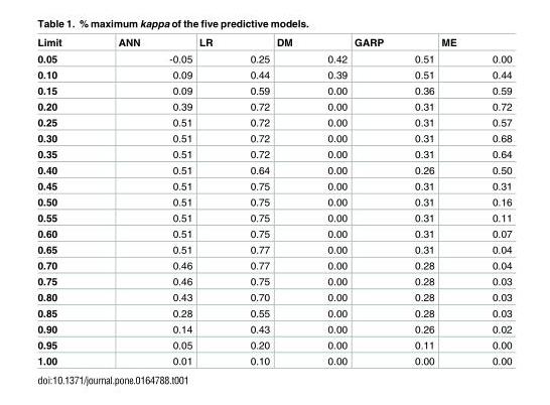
<table><thead><tr><td>Limit</td><td>ANN</td><td>LR</td><td>DM</td><td>GARP</td><td>ME</td></tr></thead><tbody><tr><td>0.05</td><td>-0.05</td><td>0.25</td><td>0.42</td><td>0.51</td><td>0.00</td></tr><tr><td>0.10</td><td>0.09</td><td>0.44</td><td>0.39</td><td>0.51</td><td>0.44</td></tr><tr><td>0.15</td><td>0.09</td><td>0.59</td><td>0.00</td><td>0.36</td><td>0.59</td></tr><tr><td>0.20</td><td>0.39</td><td>0.72</td><td>0.00</td><td>0.31</td><td>0.72</td></tr><tr><td>0.25</td><td>0.51</td><td>0.72</td><td>0.00</td><td>0.31</td><td>0.57</td></tr><tr><td>0.30</td><td>0.51</td><td>0.72</td><td>0.00</td><td>0.31</td><td>0.68</td></tr><tr><td>0.35</td><td>0.51</td><td>0.72</td><td>0.00</td><td>0.31</td><td>0.64</td></tr><tr><td>0.40</td><td>0.51</td><td>0.64</td><td>0.00</td><td>0.26</td><td>0.50</td></tr><tr><td>0.45</td><td>0.51</td><td>0.75</td><td>0.00</td><td>0.31</td><td>0.31</td></tr><tr><td>0.50</td><td>0.51</td><td>0.75</td><td>0.00</td><td>0.31</td><td>0.16</td></tr><tr><td>0.55</td><td>0.51</td><td>0.75</td><td>0.00</td><td>0.31</td><td>0.11</td></tr><tr><td>0.60</td><td>0.51</td><td>0.75</td><td>0.00</td><td>0.31</td><td>0.07</td></tr><tr><td>0.65</td><td>0.51</td><td>0.77</td><td>0.00</td><td>0.31</td><td>0.04</td></tr><tr><td>0.70</td><td>0.46</td><td>0.77</td><td>0.00</td><td>0.28</td><td>0.04</td></tr><tr><td>0.75</td><td>0.46</td><td>0.75</td><td>0.00</td><td>0.28</td><td>0.03</td></tr><tr><td>0.80</td><td>0.43</td><td>0.70</td><td>0.00</td><td>0.28</td><td>0.03</td></tr><tr><td>0.85</td><td>0.28</td><td>0.55</td><td>0.00</td><td>0.28</td><td>0.03</td></tr><tr><td>0.90</td><td>0.14</td><td>0.43</td><td>0.00</td><td>0.26</td><td>0.02</td></tr><tr><td>0.95</td><td>0.05</td><td>0.20</td><td>0.00</td><td>0.11</td><td>0.00</td></tr><tr><td>1.00</td><td>0.01</td><td>0.10</td><td>0.00</td><td>0.00</td><td>0.00</td></tr></tbody></table>